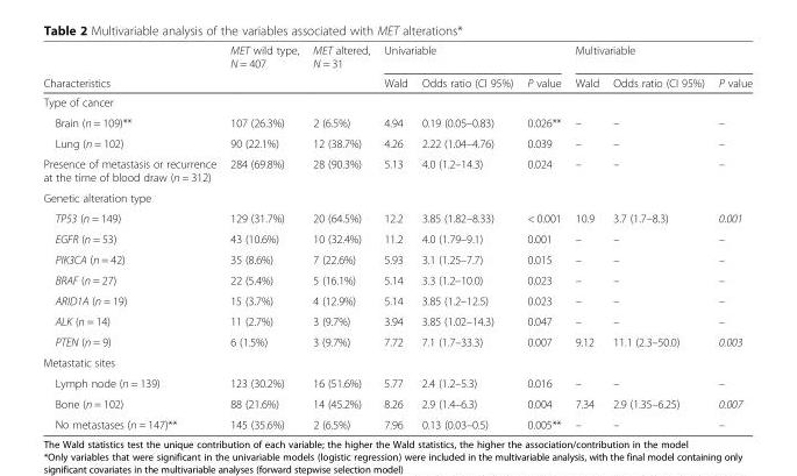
<table><thead><tr><td rowspan="2">Characteristics</td><td rowspan="2">MET wild type, N = 407</td><td rowspan="2">MET altered, N = 31</td><td colspan="3">Univariable</td><td colspan="3">Multivariable</td></tr><tr><td>Wald</td><td>Odds ratio (CI 95%)</td><td>P value</td><td>Wald</td><td>Odds ratio (CI 95%)</td><td>P value</td></tr></thead><tbody><tr><td colspan="9">Type of cancer</td></tr><tr><td>Brain (n = 109)**</td><td>107 (26.3%)</td><td>2 (6.5%)</td><td>4.94</td><td>0.19 (0.05–0.83)</td><td>0.026**</td><td>–</td><td>–</td><td>–</td></tr><tr><td>Lung (n = 102)</td><td>90 (22.1%)</td><td>12 (38.7%)</td><td>4.26</td><td>2.22 (1.04–4.76)</td><td>0.039</td><td>–</td><td>–</td><td>–</td></tr><tr><td>Presence of metastasis or recurrence at the time of blood draw (n = 312)</td><td>284 (69.8%)</td><td>28 (90.3%)</td><td>5.13</td><td>4.0 (1.2–14.3)</td><td>0.024</td><td>–</td><td>–</td><td>–</td></tr><tr><td colspan="9">Genetic alteration type</td></tr><tr><td>TP53 (n = 149)</td><td>129 (31.7%)</td><td>20 (64.5%)</td><td>12.2</td><td>3.85 (1.82–8.33)</td><td>&lt; 0.001</td><td>10.9</td><td>3.7 (1.7–8.3)</td><td>0.001</td></tr><tr><td>EGFR (n = 53)</td><td>43 (10.6%)</td><td>10 (32.4%)</td><td>11.2</td><td>4.0 (1.79–9.1)</td><td>0.001</td><td>–</td><td>–</td><td>–</td></tr><tr><td>PIK3CA (n = 42)</td><td>35 (8.6%)</td><td>7 (22.6%)</td><td>5.93</td><td>3.1 (1.25–7.7)</td><td>0.015</td><td>–</td><td>–</td><td>–</td></tr><tr><td>BRAF (n = 27)</td><td>22 (5.4%)</td><td>5 (16.1%)</td><td>5.14</td><td>3.3 (1.2–10.0)</td><td>0.023</td><td>–</td><td>–</td><td>–</td></tr><tr><td>ARID1A (n = 19)</td><td>15 (3.7%)</td><td>4 (12.9%)</td><td>5.14</td><td>3.85 (1.2–12.5)</td><td>0.023</td><td>–</td><td>–</td><td>–</td></tr><tr><td>ALK (n = 14)</td><td>11 (2.7%)</td><td>3 (9.7%)</td><td>3.94</td><td>3.85 (1.02–14.3)</td><td>0.047</td><td>–</td><td>–</td><td>–</td></tr><tr><td>PTEN (n = 9)</td><td>6 (1.5%)</td><td>3 (9.7%)</td><td>7.72</td><td>7.1 (1.7–33.3)</td><td>0.007</td><td>9.12</td><td>11.1 (2.3–50.0)</td><td>0.003</td></tr><tr><td colspan="9">Metastatic sites</td></tr><tr><td>Lymph node (n = 139)</td><td>123 (30.2%)</td><td>16 (51.6%)</td><td>5.77</td><td>2.4 (1.2–5.3)</td><td>0.016</td><td>–</td><td>–</td><td>–</td></tr><tr><td>Bone (n = 102)</td><td>88 (21.6%)</td><td>14 (45.2%)</td><td>8.26</td><td>2.9 (1.4–6.3)</td><td>0.004</td><td>7.34</td><td>2.9 (1.35–6.25)</td><td>0.007</td></tr><tr><td>No metastases (n = 147)**</td><td>145 (35.6%)</td><td>2 (6.5%)</td><td>7.96</td><td>0.13 (0.03–0.5)</td><td>0.005**</td><td>–</td><td>–</td><td>–</td></tr></tbody></table>